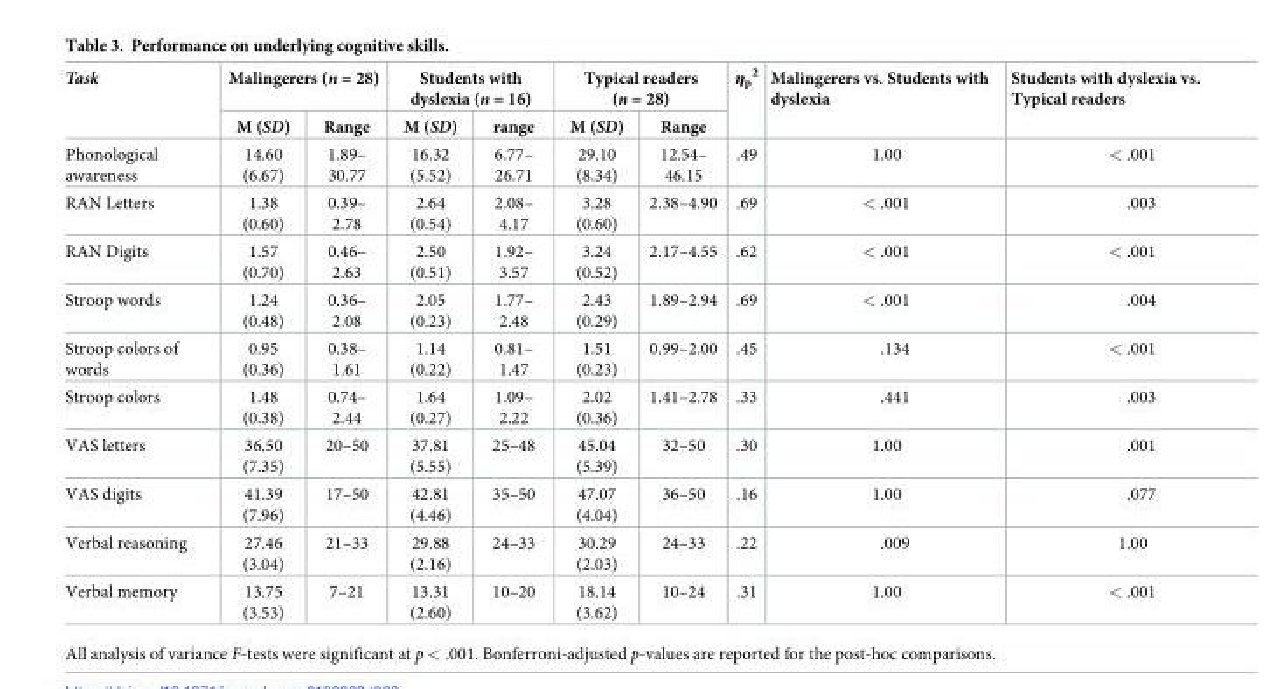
<table><thead><tr><td rowspan="2">Task</td><td colspan="2">Malingerers (n = 28)</td><td colspan="2">Students with dyslexia (n = 16)</td><td colspan="2">Typical readers (n = 28)</td><td rowspan="2">η<sub>p</sub> <sup>2</sup></td><td rowspan="2">Malingerers vs. Students with dyslexia</td><td rowspan="2">Students with dyslexia vs. Typical readers</td></tr><tr><td>M (SD)</td><td>Range</td><td>M (SD)</td><td>range</td><td>M (SD)</td><td>Range</td></tr></thead><tbody><tr><td>Phonological awareness</td><td>14.60 (6.67)</td><td>1.89– 30.77</td><td>16.32 (5.52)</td><td>6.77– 26.71</td><td>29.10 (8.34)</td><td>12.54– 46.15</td><td>.49</td><td>1.00</td><td>&lt; .001</td></tr><tr><td>RAN Letters</td><td>1.38 (0.60)</td><td>0.39– 2.78</td><td>2.64 (0.54)</td><td>2.08– 4.17</td><td>3.28 (0.60)</td><td>2.38–4.90</td><td>.69</td><td>&lt; .001</td><td>.003</td></tr><tr><td>RAN Digits</td><td>1.57 (0.70)</td><td>0.46– 2.63</td><td>2.50 (0.51)</td><td>1.92– 3.57</td><td>3.24 (0.52)</td><td>2.17–4.55</td><td>.62</td><td>&lt; .001</td><td>&lt; .001</td></tr><tr><td>Stroop words</td><td>1.24 (0.48)</td><td>0.36– 2.08</td><td>2.05 (0.23)</td><td>1.77– 2.48</td><td>2.43 (0.29)</td><td>1.89–2.94</td><td>.69</td><td>&lt; .001</td><td>.004</td></tr><tr><td>Stroop colors of words</td><td>0.95 (0.36)</td><td>0.38– 1.61</td><td>1.14 (0.22)</td><td>0.81– 1.47</td><td>1.51 (0.23)</td><td>0.99–2.00</td><td>.45</td><td>.134</td><td>&lt; .001</td></tr><tr><td>Stroop colors</td><td>1.48 (0.38)</td><td>0.74– 2.44</td><td>1.64 (0.27)</td><td>1.09– 2.22</td><td>2.02 (0.36)</td><td>1.41–2.78</td><td>.33</td><td>.441</td><td>.003</td></tr><tr><td>VAS letters</td><td>36.50 (7.35)</td><td>20–50</td><td>37.81 (5.55)</td><td>25–48</td><td>45.04 (5.39)</td><td>32–50</td><td>.30</td><td>1.00</td><td>.001</td></tr><tr><td>VAS digits</td><td>41.39 (7.96)</td><td>17–50</td><td>42.81 (4.46)</td><td>35–50</td><td>47.07 (4.04)</td><td>36–50</td><td>.16</td><td>1.00</td><td>.077</td></tr><tr><td>Verbal reasoning</td><td>27.46 (3.04)</td><td>21–33</td><td>29.88 (2.16)</td><td>24–33</td><td>30.29 (2.03)</td><td>24–33</td><td>.22</td><td>.009</td><td>1.00</td></tr><tr><td>Verbal memory</td><td>13.75 (3.53)</td><td>7–21</td><td>13.31 (2.60)</td><td>10–20</td><td>18.14 (3.62)</td><td>10–24</td><td>.31</td><td>1.00</td><td>&lt; .001</td></tr></tbody></table>